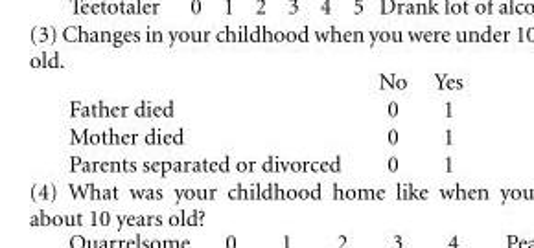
<table><thead><tr><td></td><td>No</td><td>Yes</td></tr></thead><tbody><tr><td>Father died</td><td>0</td><td>1</td></tr><tr><td>Mother died</td><td>0</td><td>1</td></tr><tr><td>Parents separated or divorced</td><td>0</td><td>1</td></tr></tbody></table>